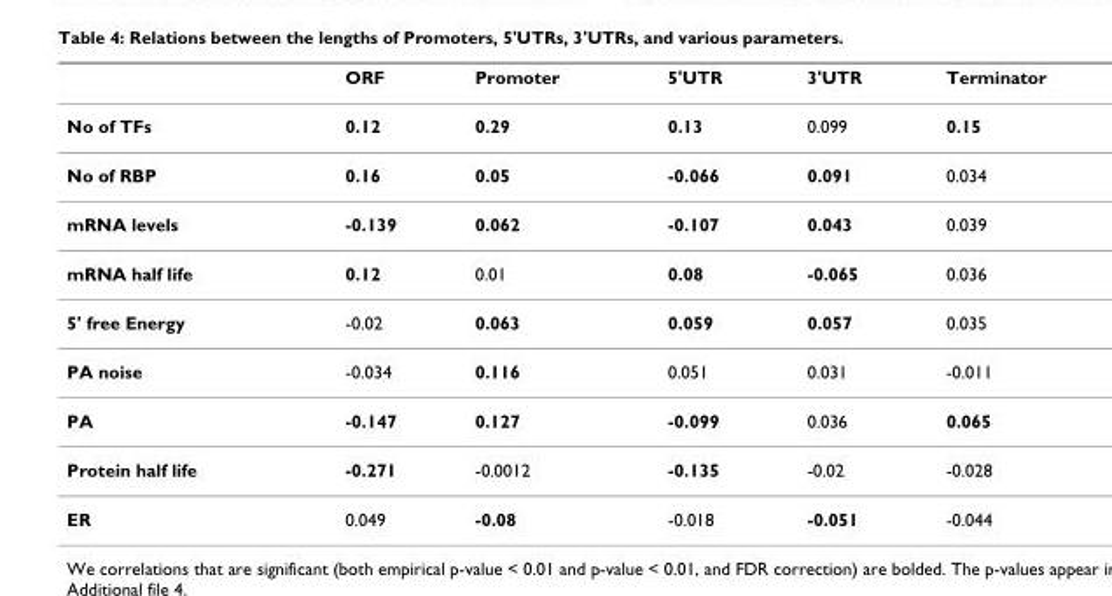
<table><thead><tr><td></td><td>ORF</td><td>Promoter</td><td>5&#x27;UTR</td><td>3&#x27;UTR</td><td>Terminator</td></tr></thead><tbody><tr><td>No of TFs</td><td>0.12</td><td>0.29</td><td>0.13</td><td>0.099</td><td>0.15</td></tr><tr><td>No of RBP</td><td>0.16</td><td>0.05</td><td>-0.066</td><td>0.091</td><td>0.034</td></tr><tr><td>mRNA levels</td><td>-0.139</td><td>0.062</td><td>-0.107</td><td>0.043</td><td>0.039</td></tr><tr><td>mRNA half life</td><td>0.12</td><td>0.01</td><td>0.08</td><td>-0.065</td><td>0.036</td></tr><tr><td>5&#x27; free Energy</td><td>-0.02</td><td>0.063</td><td>0.059</td><td>0.057</td><td>0.035</td></tr><tr><td>PA noise</td><td>-0.034</td><td>0.116</td><td>0.051</td><td>0.031</td><td>-0.011</td></tr><tr><td>PA</td><td>-0.147</td><td>0.127</td><td>-0.099</td><td>0.036</td><td>0.065</td></tr><tr><td>Protein half life</td><td>-0.271</td><td>-0.0012</td><td>-0.135</td><td>-0.02</td><td>-0.028</td></tr><tr><td>ER</td><td>0.049</td><td>-0.08</td><td>-0.018</td><td>-0.051</td><td>-0.044</td></tr></tbody></table>